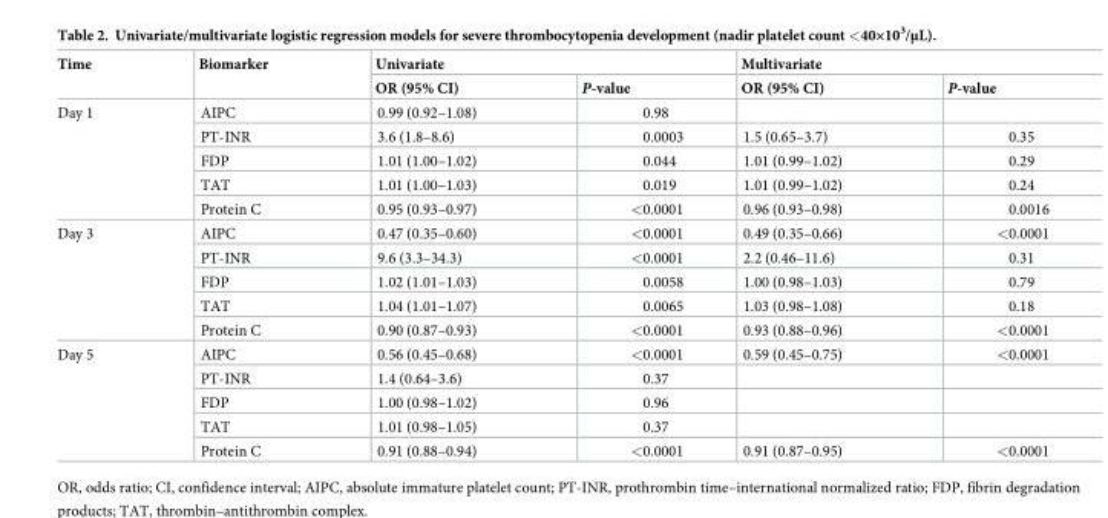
<table><thead><tr><td rowspan="2">Time</td><td rowspan="2">Biomarker</td><td colspan="2">Univariate</td><td colspan="2">Multivariate</td></tr><tr><td>OR (95% CI)</td><td>P-value</td><td>OR (95% CI)</td><td>P-value</td></tr></thead><tbody><tr><td rowspan="5">Day 1</td><td>AIPC</td><td>0.99 (0.92–1.08)</td><td>0.98</td><td></td><td></td></tr><tr><td>PT-INR</td><td>3.6 (1.8–8.6)</td><td>0.0003</td><td>1.5 (0.65–3.7)</td><td>0.35</td></tr><tr><td>FDP</td><td>1.01 (1.00–1.02)</td><td>0.044</td><td>1.01 (0.99–1.02)</td><td>0.29</td></tr><tr><td>TAT</td><td>1.01 (1.00–1.03)</td><td>0.019</td><td>1.01 (0.99–1.02)</td><td>0.24</td></tr><tr><td>Protein C</td><td>0.95 (0.93–0.97)</td><td>&lt;0.0001</td><td>0.96 (0.93–0.98)</td><td>0.0016</td></tr><tr><td rowspan="5">Day 3</td><td>AIPC</td><td>0.47 (0.35–0.60)</td><td>&lt;0.0001</td><td>0.49 (0.35–0.66)</td><td>&lt;0.0001</td></tr><tr><td>PT-INR</td><td>9.6 (3.3–34.3)</td><td>&lt;0.0001</td><td>2.2 (0.46–11.6)</td><td>0.31</td></tr><tr><td>FDP</td><td>1.02 (1.01–1.03)</td><td>0.0058</td><td>1.00 (0.98–1.03)</td><td>0.79</td></tr><tr><td>TAT</td><td>1.04 (1.01–1.07)</td><td>0.0065</td><td>1.03 (0.98–1.08)</td><td>0.18</td></tr><tr><td>Protein C</td><td>0.90 (0.87–0.93)</td><td>&lt;0.0001</td><td>0.93 (0.88–0.96)</td><td>&lt;0.0001</td></tr><tr><td rowspan="5">Day 5</td><td>AIPC</td><td>0.56 (0.45–0.68)</td><td>&lt;0.0001</td><td>0.59 (0.45–0.75)</td><td>&lt;0.0001</td></tr><tr><td>PT-INR</td><td>1.4 (0.64–3.6)</td><td>0.37</td><td></td><td></td></tr><tr><td>FDP</td><td>1.00 (0.98–1.02)</td><td>0.96</td><td></td><td></td></tr><tr><td>TAT</td><td>1.01 (0.98–1.05)</td><td>0.37</td><td></td><td></td></tr><tr><td>Protein C</td><td>0.91 (0.88–0.94)</td><td>&lt;0.0001</td><td>0.91 (0.87–0.95)</td><td>&lt;0.0001</td></tr></tbody></table>